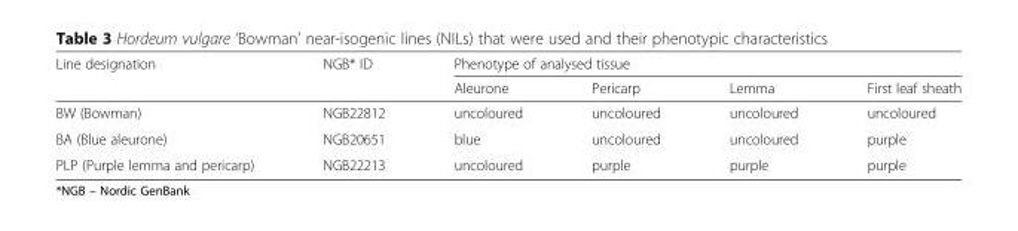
<table><thead><tr><td rowspan="2">Line designation</td><td rowspan="2">NGB* ID</td><td colspan="4">Phenotype of analysed tissue</td></tr><tr><td>Aleurone</td><td>Pericarp</td><td>Lemma</td><td>First leaf sheath</td></tr></thead><tbody><tr><td>BW (Bowman)</td><td>NGB22812</td><td>uncoloured</td><td>uncoloured</td><td>uncoloured</td><td>uncoloured</td></tr><tr><td>BA (Blue aleurone)</td><td>NGB20651</td><td>blue</td><td>uncoloured</td><td>uncoloured</td><td>purple</td></tr><tr><td>PLP (Purple lemma and pericarp)</td><td>NGB22213</td><td>uncoloured</td><td>purple</td><td>purple</td><td>purple</td></tr></tbody></table>